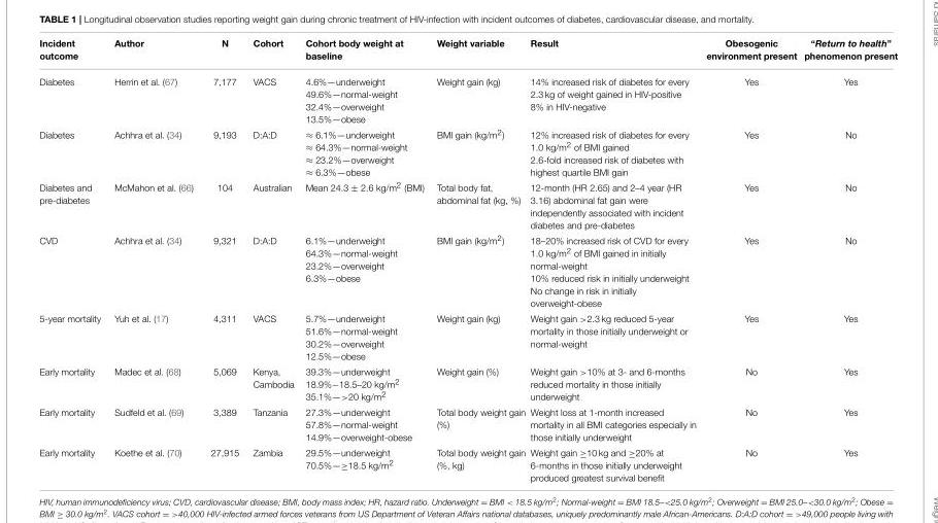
<table><thead><tr><td>Incident outcome</td><td>Author</td><td>N</td><td>Cohort</td><td>Cohort body weight at baseline</td><td>Weight variable</td><td>Result</td><td>Obesogenic environment present</td><td>“Return to health” phenomenon present</td></tr></thead><tbody><tr><td>Diabetes</td><td>Herrin et al. (67)</td><td>7,177</td><td>VACS</td><td>4.6%—underweight 49.6%—normal-weight 32.4%—overweight 13.5%—obese</td><td>Weight gain (kg)</td><td>14% increased risk of diabetes for every 2.3 kg of weight gained in HIV-positive 8% in HIV-negative</td><td>Yes</td><td>Yes</td></tr><tr><td>Diabetes</td><td>Achhra et al. (34)</td><td>9,193</td><td>D:A:D</td><td>≈ 6.1%—underweight ≈ 64.3%—normal-weight ≈ 23.2%—overweight ≈ 6.3%—obese</td><td>BMI gain (kg/m<sup>2</sup>)</td><td>12% increased risk of diabetes for every 1.0 kg/m<sup>2</sup> of BMI gained 2.6-fold increased risk of diabetes with highest quartile BMI gain</td><td>Yes</td><td>No</td></tr><tr><td>Diabetes and pre-diabetes</td><td>McMahon et al. (66)</td><td>104</td><td>Australian</td><td>Mean 24.3 ± 2.6 kg/m<sup>2</sup> (BMI)</td><td>Total body fat, abdominal fat (kg, %)</td><td>12-month (HR 2.65) and 2–4 year (HR 3.16) abdominal fat gain were independently associated with incident diabetes and pre-diabetes</td><td>Yes</td><td>No</td></tr><tr><td>CVD</td><td>Achhra et al. (34)</td><td>9,321</td><td>D:A:D</td><td>6.1%—underweight 64.3%—normal-weight 23.2%—overweight 6.3%—obese</td><td>BMI gain (kg/m<sup>2</sup>)</td><td>18–20% increased risk of CVD for every 1.0 kg/m<sup>2</sup> of BMI gained in initially normal-weight 10% reduced risk in initially underweight No change in risk in initially overweight-obese</td><td>Yes</td><td>No</td></tr><tr><td>5-year mortality</td><td>Yuh et al. (17)</td><td>4,311</td><td>VACS</td><td>5.7%—underweight 51.6%—normal-weight 30.2%—overweight 12.5%—obese</td><td>Weight gain (kg)</td><td>Weight gain &gt;2.3 kg reduced 5-year mortality in those initially underweight or normal-weight</td><td>Yes</td><td>Yes</td></tr><tr><td>Early mortality</td><td>Madec et al. (68)</td><td>5,069</td><td>Kenya, Cambodia</td><td>39.3%—underweight 18.9%−18.5–20 kg/m<sup>2</sup> 35.1%—&gt;20 kg/m<sup>2</sup></td><td>Weight gain (%)</td><td>Weight gain &gt;10% at 3- and 6-months reduced mortality in those initially underweight</td><td>No</td><td>Yes</td></tr><tr><td>Early mortality</td><td>Sudfeld et al. (69)</td><td>3,389</td><td>Tanzania</td><td>27.3%—underweight 57.8%—normal-weight 14.9%—overweight-obese</td><td>Total body weight gain (%)</td><td>Weight loss at 1-month increased mortality in all BMI categories especially in those initially underweight</td><td>No</td><td>Yes</td></tr><tr><td>Early mortality</td><td>Koethe et al. (70)</td><td>27,915</td><td>Zambia</td><td>29.5%—underweight 70.5%—≥18.5 kg/m<sup>2</sup></td><td>Total body weight gain (%, kg)</td><td>Weight gain ≥10 kg and ≥20% at 6-months in those initially underweight produced greatest survival benefit</td><td>No</td><td>Yes</td></tr></tbody></table>